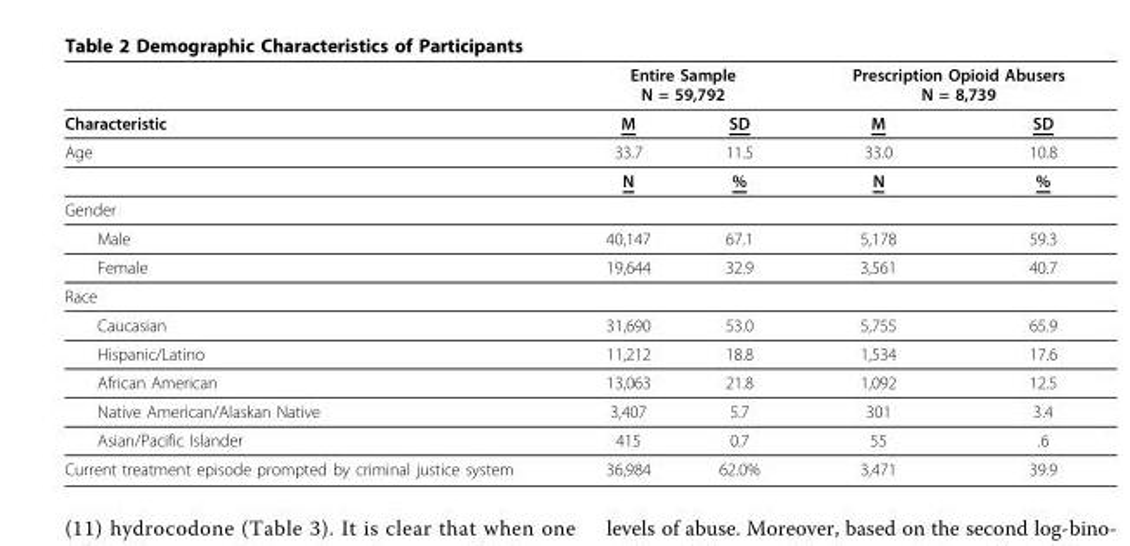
<table><thead><tr><td rowspan="2">Characteristic</td><td colspan="2">Entire Sample N = 59,792</td><td colspan="2">Prescription Opioid Abusers N = 8,739</td></tr><tr><td>M</td><td>SD</td><td>M</td><td>SD</td></tr></thead><tbody><tr><td rowspan="2">Age</td><td>33.7</td><td>11.5</td><td>33.0</td><td>10.8</td></tr><tr><td>N</td><td>%</td><td>N</td><td>%</td></tr><tr><td colspan="5">Gender</td></tr><tr><td>Male</td><td>40,147</td><td>67.1</td><td>5,178</td><td>59.3</td></tr><tr><td>Female</td><td>19,644</td><td>32.9</td><td>3,561</td><td>40.7</td></tr><tr><td colspan="5">Race</td></tr><tr><td>Caucasian</td><td>31,690</td><td>53.0</td><td>5,755</td><td>65.9</td></tr><tr><td>Hispanic/Latino</td><td>11,212</td><td>18.8</td><td>1,534</td><td>17.6</td></tr><tr><td>African American</td><td>13,063</td><td>21.8</td><td>1,092</td><td>12.5</td></tr><tr><td>Native American/Alaskan Native</td><td>3,407</td><td>5.7</td><td>301</td><td>3.4</td></tr><tr><td>Asian/Pacific Islander</td><td>415</td><td>0.7</td><td>55</td><td>.6</td></tr><tr><td>Current treatment episode prompted by criminal justice system</td><td>36,984</td><td>62.0%</td><td>3,471</td><td>39.9</td></tr></tbody></table>